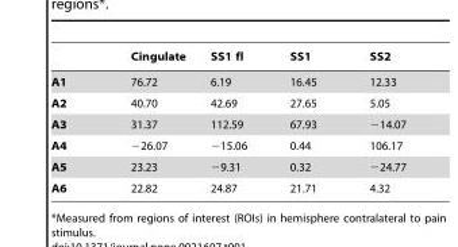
<table><thead><tr><td></td><td>Cingulate</td><td>SS1 fl</td><td>SS1</td><td>SS2</td></tr></thead><tbody><tr><td>A1</td><td>76.72</td><td>6.19</td><td>16.45</td><td>12.33</td></tr><tr><td>A2</td><td>40.70</td><td>42.69</td><td>27.65</td><td>5.05</td></tr><tr><td>A3</td><td>31.37</td><td>112.59</td><td>67.93</td><td>−14.07</td></tr><tr><td>A4</td><td>−26.07</td><td>−15.06</td><td>0.44</td><td>106.17</td></tr><tr><td>A5</td><td>23.23</td><td>−9.31</td><td>0.32</td><td>−24.77</td></tr><tr><td>A6</td><td>22.82</td><td>24.87</td><td>21.71</td><td>4.32</td></tr></tbody></table>